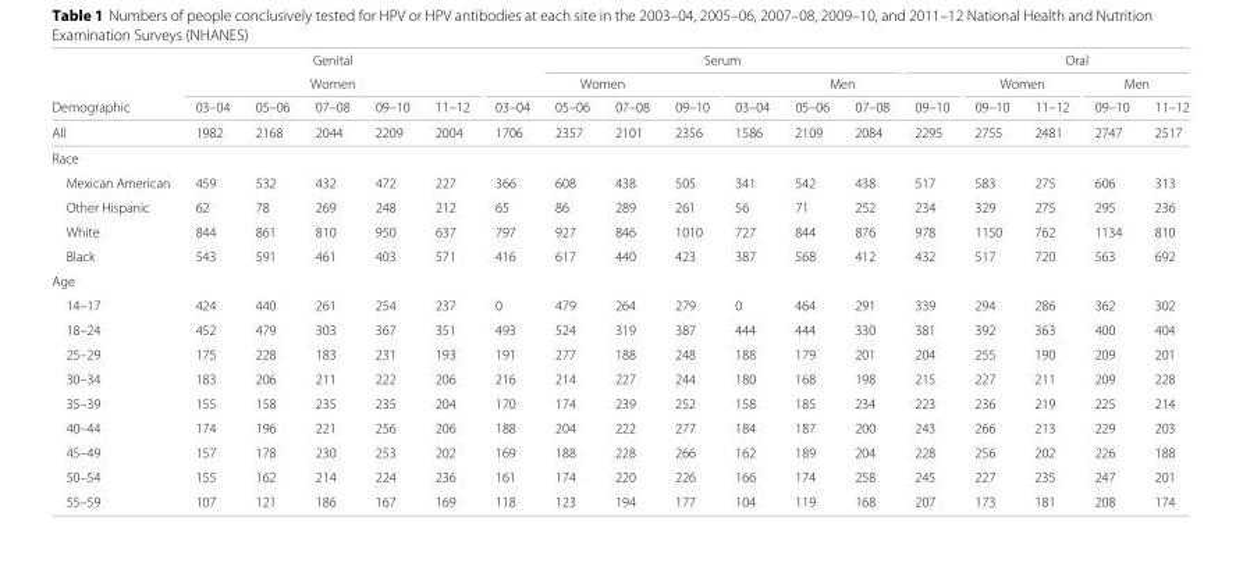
<table><thead><tr><td rowspan="3">Demographic</td><td rowspan="2" colspan="5">Genital Women</td><td></td><td colspan="6">Serum</td><td colspan="5">Oral</td></tr><tr><td colspan="4">Women</td><td colspan="4">Men</td><td colspan="2">Women</td><td colspan="2">Men</td></tr><tr><td>03–04</td><td>05–06</td><td>07–08</td><td>09–10</td><td>11–12</td><td>03–04</td><td>05–06</td><td>07–08</td><td>09–10</td><td>03–04</td><td>05–06</td><td>07–08</td><td>09–10</td><td>09–10</td><td>11–12</td><td>09–10</td><td>11–12</td></tr></thead><tbody><tr><td>All</td><td>1982</td><td>2168</td><td>2044</td><td>2209</td><td>2004</td><td>1706</td><td>2357</td><td>2101</td><td>2356</td><td>1586</td><td>2109</td><td>2084</td><td>2295</td><td>2755</td><td>2481</td><td>2747</td><td>2517</td></tr><tr><td colspan="18">Race</td></tr><tr><td>Mexican American</td><td>459</td><td>532</td><td>432</td><td>472</td><td>227</td><td>366</td><td>608</td><td>438</td><td>505</td><td>341</td><td>542</td><td>438</td><td>517</td><td>583</td><td>275</td><td>606</td><td>313</td></tr><tr><td>Other Hispanic</td><td>62</td><td>78</td><td>269</td><td>248</td><td>212</td><td>65</td><td>86</td><td>289</td><td>261</td><td>56</td><td>71</td><td>252</td><td>234</td><td>329</td><td>275</td><td>295</td><td>236</td></tr><tr><td>White</td><td>844</td><td>861</td><td>810</td><td>950</td><td>637</td><td>797</td><td>927</td><td>846</td><td>1010</td><td>727</td><td>844</td><td>876</td><td>978</td><td>1150</td><td>762</td><td>1134</td><td>810</td></tr><tr><td>Black</td><td>543</td><td>591</td><td>461</td><td>403</td><td>571</td><td>416</td><td>617</td><td>440</td><td>423</td><td>387</td><td>568</td><td>412</td><td>432</td><td>517</td><td>720</td><td>563</td><td>692</td></tr><tr><td colspan="18">Age</td></tr><tr><td>14–17</td><td>424</td><td>440</td><td>261</td><td>254</td><td>237</td><td>0</td><td>479</td><td>264</td><td>279</td><td>0</td><td>464</td><td>291</td><td>339</td><td>294</td><td>286</td><td>362</td><td>302</td></tr><tr><td>18–24</td><td>452</td><td>479</td><td>303</td><td>367</td><td>351</td><td>493</td><td>524</td><td>319</td><td>387</td><td>444</td><td>444</td><td>330</td><td>381</td><td>392</td><td>363</td><td>400</td><td>404</td></tr><tr><td>25–29</td><td>175</td><td>228</td><td>183</td><td>231</td><td>193</td><td>191</td><td>277</td><td>188</td><td>248</td><td>188</td><td>179</td><td>201</td><td>204</td><td>255</td><td>190</td><td>209</td><td>201</td></tr><tr><td>30–34</td><td>183</td><td>206</td><td>211</td><td>222</td><td>206</td><td>216</td><td>214</td><td>227</td><td>244</td><td>180</td><td>168</td><td>198</td><td>215</td><td>227</td><td>211</td><td>209</td><td>228</td></tr><tr><td>35–39</td><td>155</td><td>158</td><td>235</td><td>235</td><td>204</td><td>170</td><td>174</td><td>239</td><td>252</td><td>158</td><td>185</td><td>234</td><td>223</td><td>236</td><td>219</td><td>225</td><td>214</td></tr><tr><td>40–44</td><td>174</td><td>196</td><td>221</td><td>256</td><td>206</td><td>188</td><td>204</td><td>222</td><td>277</td><td>184</td><td>187</td><td>200</td><td>243</td><td>266</td><td>213</td><td>229</td><td>203</td></tr><tr><td>45–49</td><td>157</td><td>178</td><td>230</td><td>253</td><td>202</td><td>169</td><td>188</td><td>228</td><td>266</td><td>162</td><td>189</td><td>204</td><td>228</td><td>256</td><td>202</td><td>226</td><td>188</td></tr><tr><td>50–54</td><td>155</td><td>162</td><td>214</td><td>224</td><td>236</td><td>161</td><td>174</td><td>220</td><td>226</td><td>166</td><td>174</td><td>258</td><td>245</td><td>227</td><td>235</td><td>247</td><td>201</td></tr><tr><td>55–59</td><td>107</td><td>121</td><td>186</td><td>167</td><td>169</td><td>118</td><td>123</td><td>194</td><td>177</td><td>104</td><td>119</td><td>168</td><td>207</td><td>173</td><td>181</td><td>208</td><td>174</td></tr></tbody></table>